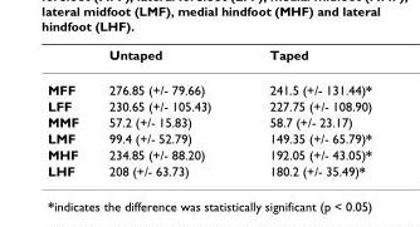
<table><thead><tr><td></td><td>Untaped</td><td>Taped</td></tr></thead><tbody><tr><td>MFF</td><td>276.85 (+/- 79.66)</td><td>241.5 (+/- 131.44)*</td></tr><tr><td>LFF</td><td>230.65 (+/- 105.43)</td><td>227.75 (+/- 108.90)</td></tr><tr><td>MMF</td><td>57.2 (+/- 15.83)</td><td>58.7 (+/- 23.17)</td></tr><tr><td>LMF</td><td>99.4 (+/- 52.79)</td><td>149.35 (+/- 65.79)*</td></tr><tr><td>MHF</td><td>234.85 (+/- 88.20)</td><td>192.05 (+/- 43.05)*</td></tr><tr><td>LHF</td><td>208 (+/- 63.73)</td><td>180.2 (+/- 35.49)*</td></tr></tbody></table>